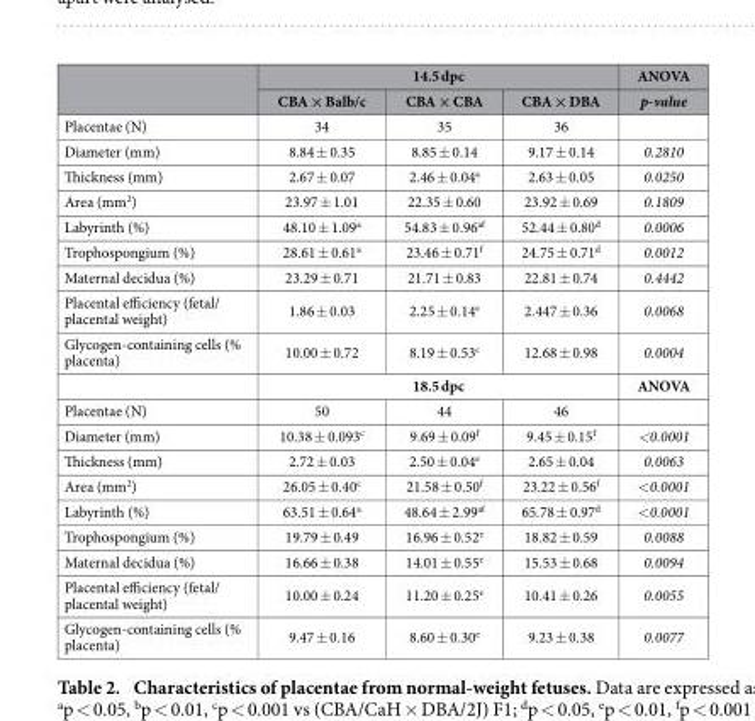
<table><thead><tr><td rowspan="2"></td><td colspan="3">14.5 dpc</td><td rowspan="2">ANOVA p-value</td></tr><tr><td>CBA × Balb/c</td><td>CBA × CBA</td><td>CBA × DBA</td></tr></thead><tbody><tr><td>Placentae (N)</td><td>34</td><td>35</td><td>36</td><td></td></tr><tr><td>Diameter (mm)</td><td>8.84 ± 0.35</td><td>8.85 ± 0.14</td><td>9.17 ± 0.14</td><td>0.2810</td></tr><tr><td>Thickness (mm)</td><td>2.67 ± 0.07</td><td>2.46 ± 0.04<sup>a</sup></td><td>2.63 ± 0.05</td><td>0.0250</td></tr><tr><td>Area (mm<sup>2</sup>)</td><td>23.97 ± 1.01</td><td>22.35 ± 0.60</td><td>23.92 ± 0.69</td><td>0.1809</td></tr><tr><td>Labyrinth (%)</td><td>48.10 ± 1.09<sup>a</sup></td><td>54.83 ± 0.96<sup>af</sup></td><td>52.44 ± 0.80<sup>d</sup></td><td>0.0006</td></tr><tr><td>Trophospongium (%)</td><td>28.61 ± 0.61<sup>a</sup></td><td>23.46 ± 0.71<sup>f</sup></td><td>24.75 ± 0.71<sup>d</sup></td><td>0.0012</td></tr><tr><td>Maternal decidua (%)</td><td>23.29 ± 0.71</td><td>21.71 ± 0.83</td><td>22.81 ± 0.74</td><td>0.4442</td></tr><tr><td>Placental efficiency (fetal/ placental weight)</td><td>1.86 ± 0.03</td><td>2.25 ± 0.14<sup>e</sup></td><td>2.447 ± 0.36</td><td>0.0068</td></tr><tr><td rowspan="2">Glycogen-containing cells (% placenta)</td><td>10.00 ± 0.72</td><td>8.19 ± 0.53<sup>c</sup></td><td>12.68 ± 0.98</td><td>0.0004</td></tr><tr><td colspan="3">18.5 dpc</td><td>ANOVA</td></tr><tr><td>Placentae (N)</td><td>50</td><td>44</td><td>46</td><td></td></tr><tr><td>Diameter (mm)</td><td>10.38 ± 0.093<sup>c</sup></td><td>9.69 ± 0.09<sup>f</sup></td><td>9.45 ± 0.15<sup>f</sup></td><td>&lt;0.0001</td></tr><tr><td>Thickness (mm)</td><td>2.72 ± 0.03</td><td>2.50 ± 0.04<sup>e</sup></td><td>2.65 ± 0.04</td><td>0.0063</td></tr><tr><td>Area (mm<sup>2</sup>)</td><td>26.05 ± 0.40<sup>c</sup></td><td>21.58 ± 0.50<sup>f</sup></td><td>23.22 ± 0.56<sup>f</sup></td><td>&lt; 0.0001</td></tr><tr><td>Labyrinth (%)</td><td>63.51 ± 0.64<sup>a</sup></td><td>48.64 ± 2.99<sup>af</sup></td><td>65.78 ± 0.97<sup>d</sup></td><td>&lt; 0.0001</td></tr><tr><td>Trophospongium (%)</td><td>19.79 ± 0.49</td><td>16.96 ± 0.52<sup>e</sup></td><td>18.82 ± 0.59</td><td>0.0088</td></tr><tr><td>Maternal decidua (%)</td><td>16.66 ± 0.38</td><td>14.01 ± 0.55<sup>e</sup></td><td>15.53 ± 0.68</td><td>0.0094</td></tr><tr><td>Placental efficiency (fetal/ placental weight)</td><td>10.00 ± 0.24</td><td>11.20 ± 0.25<sup>e</sup></td><td>10.41 ± 0.26</td><td>0.0055</td></tr><tr><td>Glycogen-containing cells (% placenta)</td><td>9.47 ± 0.16</td><td>8.60 ± 0.30<sup>e</sup></td><td>9.23 ± 0.38</td><td>0.0077</td></tr></tbody></table>